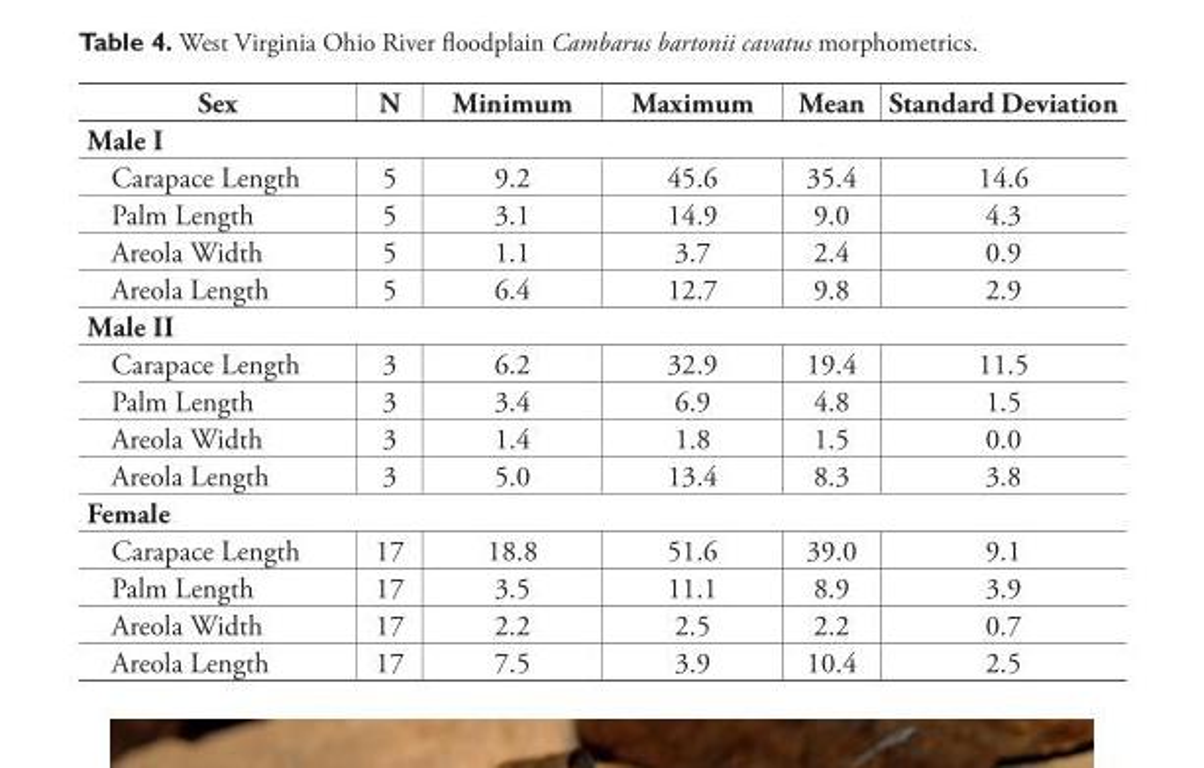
<table><thead><tr><td>Sex</td><td>N</td><td>Minimum</td><td>Maximum</td><td>Mean</td><td>Standard Deviation</td></tr></thead><tbody><tr><td colspan="6">Male I</td></tr><tr><td>Carapace Length</td><td>5</td><td>9.2</td><td>45.6</td><td>35.4</td><td>14.6</td></tr><tr><td>Palm Length</td><td>5</td><td>3.1</td><td>14.9</td><td>9.0</td><td>4.3</td></tr><tr><td>Areola Width</td><td>5</td><td>1.1</td><td>3.7</td><td>2.4</td><td>0.9</td></tr><tr><td>Areola Length</td><td>5</td><td>6.4</td><td>12.7</td><td>9.8</td><td>2.9</td></tr><tr><td colspan="6">Male II</td></tr><tr><td>Carapace Length</td><td>3</td><td>6.2</td><td>32.9</td><td>19.4</td><td>11.5</td></tr><tr><td>Palm Length</td><td>3</td><td>3.4</td><td>6.9</td><td>4.8</td><td>1.5</td></tr><tr><td>Areola Width</td><td>3</td><td>1.4</td><td>1.8</td><td>1.5</td><td>0.0</td></tr><tr><td>Areola Length</td><td>3</td><td>5.0</td><td>13.4</td><td>8.3</td><td>3.8</td></tr><tr><td colspan="6">Female</td></tr><tr><td>Carapace Length</td><td>17</td><td>18.8</td><td>51.6</td><td>39.0</td><td>9.1</td></tr><tr><td>Palm Length</td><td>17</td><td>3.5</td><td>11.1</td><td>8.9</td><td>3.9</td></tr><tr><td>Areola Width</td><td>17</td><td>2.2</td><td>2.5</td><td>2.2</td><td>0.7</td></tr><tr><td>Areola Length</td><td>17</td><td>7.5</td><td>3.9</td><td>10.4</td><td>2.5</td></tr></tbody></table>